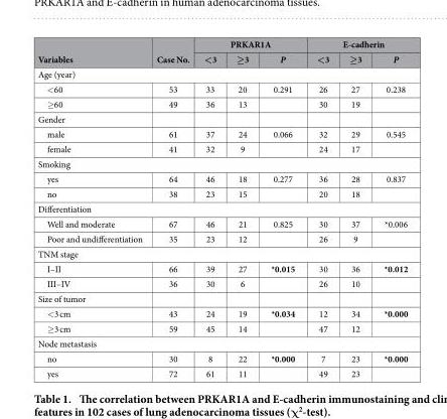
<table><thead><tr><td rowspan="2">Variables</td><td rowspan="2">Case No.</td><td colspan="3">PRKAR1A</td><td colspan="3">E-cadherin</td></tr><tr><td>&lt;3</td><td>≥3</td><td>P</td><td>&lt;3</td><td>≥3</td><td>P</td></tr></thead><tbody><tr><td colspan="8">Age (year)</td></tr><tr><td>&lt; 60</td><td>53</td><td>33</td><td>20</td><td>0.291</td><td>26</td><td>27</td><td>0.238</td></tr><tr><td>≥ 60</td><td>49</td><td>36</td><td>13</td><td></td><td>30</td><td>19</td><td></td></tr><tr><td colspan="8">Gender</td></tr><tr><td>male</td><td>61</td><td>37</td><td>24</td><td>0.066</td><td>32</td><td>29</td><td>0.545</td></tr><tr><td>female</td><td>41</td><td>32</td><td>9</td><td></td><td>24</td><td>17</td><td></td></tr><tr><td colspan="8">Smoking</td></tr><tr><td>yes</td><td>64</td><td>46</td><td>18</td><td>0.277</td><td>36</td><td>28</td><td>0.837</td></tr><tr><td>no</td><td>38</td><td>23</td><td>15</td><td></td><td>20</td><td>18</td><td></td></tr><tr><td colspan="8">Differentiation</td></tr><tr><td>Well and moderate</td><td>67</td><td>46</td><td>21</td><td>0.825</td><td>30</td><td>37</td><td>*0.006</td></tr><tr><td>Poor and undifferentiation</td><td>35</td><td>23</td><td>12</td><td></td><td>26</td><td>9</td><td></td></tr><tr><td colspan="8">TNM stage</td></tr><tr><td>I–II</td><td>66</td><td>39</td><td>27</td><td>*0.015</td><td>30</td><td>36</td><td>*0.012</td></tr><tr><td>III–IV</td><td>36</td><td>30</td><td>6</td><td></td><td>26</td><td>10</td><td></td></tr><tr><td colspan="8">Size of tumor</td></tr><tr><td>&lt; 3 cm</td><td>43</td><td>24</td><td>19</td><td>*0.034</td><td>12</td><td>34</td><td>*0.000</td></tr><tr><td>≥ 3 cm</td><td>59</td><td>45</td><td>14</td><td></td><td>47</td><td>12</td><td></td></tr><tr><td colspan="8">Node metastasis</td></tr><tr><td>no</td><td>30</td><td>8</td><td>22</td><td>*0.000</td><td>7</td><td>23</td><td>*0.000</td></tr><tr><td>yes</td><td>72</td><td>61</td><td>11</td><td></td><td>49</td><td>23</td><td></td></tr></tbody></table>